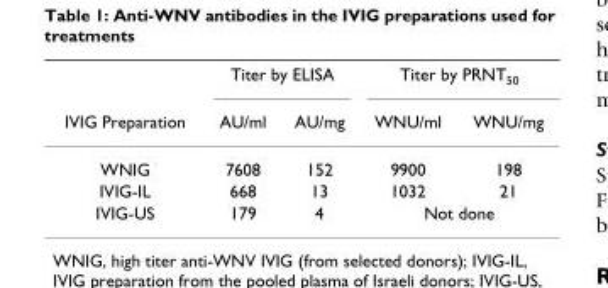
<table><thead><tr><td rowspan="2">IVIG Preparation</td><td colspan="2">Titer by ELISA</td><td colspan="2">Titer by PRNT<sub>50</sub></td></tr><tr><td>AU/ml</td><td>AU/mg</td><td>WNU/ml</td><td>WNU/mg</td></tr></thead><tbody><tr><td>WNIG</td><td>7608</td><td>152</td><td>9900</td><td>198</td></tr><tr><td>IVIG-IL</td><td>668</td><td>13</td><td>1032</td><td>21</td></tr><tr><td>IVIG-US</td><td>179</td><td>4</td><td colspan="2">Not done</td></tr></tbody></table>